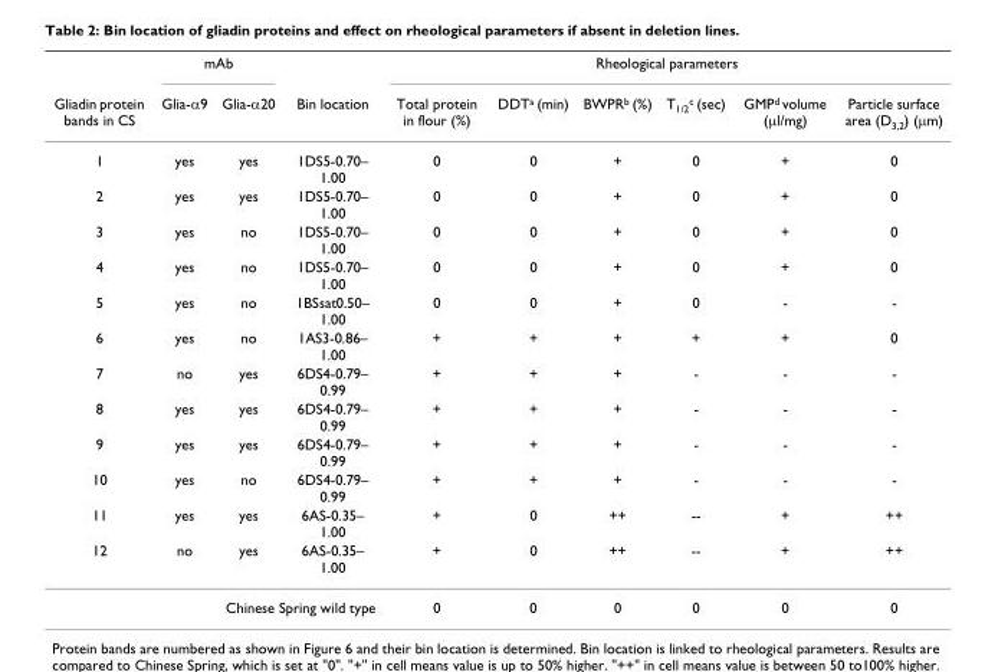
<table><thead><tr><td rowspan="2">Gliadin protein bands in CS</td><td colspan="2">mAb</td><td rowspan="2">Bin location</td><td colspan="6">Rheological parameters</td></tr><tr><td>Glia-α9</td><td>Glia-α20</td><td>Total protein in flour (%)</td><td>DDT<sup>a</sup> (min)</td><td>BWPR<sup>b</sup> (%)</td><td>T<sub>1/2</sub><sup>c</sup> (sec)</td><td>GMP<sup>d</sup> volume (μl/mg)</td><td>Particle surface area (D<sub>3,2</sub>) (μm)</td></tr></thead><tbody><tr><td>1</td><td>yes</td><td>yes</td><td>1DS5-0.70– 1.00</td><td>0</td><td>0</td><td>+</td><td>0</td><td>+</td><td>0</td></tr><tr><td>2</td><td>yes</td><td>yes</td><td>1DS5-0.70– 1.00</td><td>0</td><td>0</td><td>+</td><td>0</td><td>+</td><td>0</td></tr><tr><td>3</td><td>yes</td><td>no</td><td>1DS5-0.70– 1.00</td><td>0</td><td>0</td><td>+</td><td>0</td><td>+</td><td>0</td></tr><tr><td>4</td><td>yes</td><td>no</td><td>1DS5-0.70– 1.00</td><td>0</td><td>0</td><td>+</td><td>0</td><td>+</td><td>0</td></tr><tr><td>5</td><td>yes</td><td>no</td><td>1BSsat0.50– 1.00</td><td>0</td><td>0</td><td>+</td><td>0</td><td>-</td><td>-</td></tr><tr><td>6</td><td>yes</td><td>no</td><td>1AS3-0.86– 1.00</td><td>+</td><td>+</td><td>+</td><td>+</td><td>+</td><td>0</td></tr><tr><td>7</td><td>no</td><td>yes</td><td>6DS4-0.79– 0.99</td><td>+</td><td>+</td><td>+</td><td>-</td><td>-</td><td>-</td></tr><tr><td>8</td><td>yes</td><td>yes</td><td>6DS4-0.79– 0.99</td><td>+</td><td>+</td><td>+</td><td>-</td><td>-</td><td>-</td></tr><tr><td>9</td><td>yes</td><td>yes</td><td>6DS4-0.79– 0.99</td><td>+</td><td>+</td><td>+</td><td>-</td><td>-</td><td>-</td></tr><tr><td>10</td><td>yes</td><td>no</td><td>6DS4-0.79– 0.99</td><td>+</td><td>+</td><td>+</td><td>-</td><td>-</td><td>-</td></tr><tr><td>11</td><td>yes</td><td>yes</td><td>6AS-0.35– 1.00</td><td>+</td><td>0</td><td>++</td><td>--</td><td>+</td><td>++</td></tr><tr><td>12</td><td>no</td><td>yes</td><td>6AS-0.35– 1.00</td><td>+</td><td>0</td><td>++</td><td>--</td><td>+</td><td>++</td></tr><tr><td colspan="4">Chinese Spring wild type</td><td>0</td><td>0</td><td>0</td><td>0</td><td>0</td><td>0</td></tr></tbody></table>